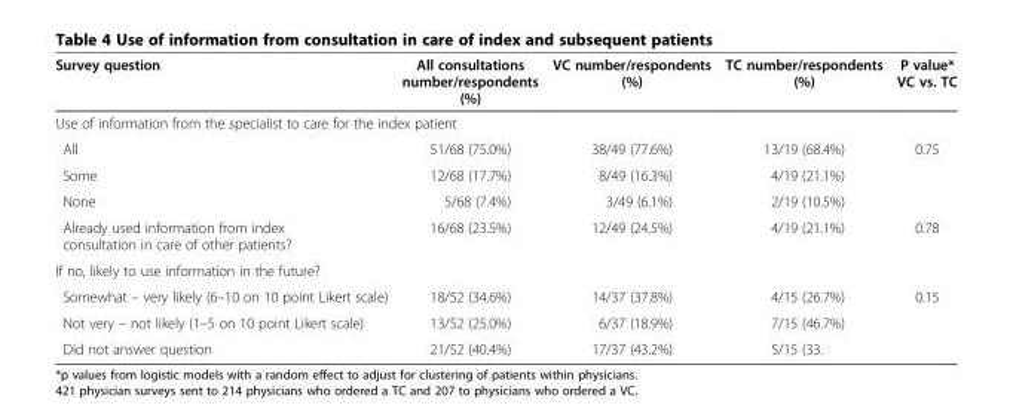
<table><thead><tr><td>Survey question</td><td>All consultations number/respondents (%)</td><td>VC number/respondents (%)</td><td>TC number/respondents (%)</td><td>P value* VC vs. TC</td></tr></thead><tbody><tr><td colspan="5">Use of information from the specialist to care for the index patient</td></tr><tr><td>All</td><td>51/68 (75.0%)</td><td>38/49 (77.6%)</td><td>13/19 (68.4%)</td><td>0.75</td></tr><tr><td>Some</td><td>12/68 (17.7%)</td><td>8/49 (16.3%)</td><td>4/19 (21.1%)</td><td></td></tr><tr><td>None</td><td>5/68 (7.4%)</td><td>3/49 (6.1%)</td><td>2/19 (10.5%)</td><td></td></tr><tr><td>Already used information from index consultation in care of other patients?</td><td>16/68 (23.5%)</td><td>12/49 (24.5%)</td><td>4/19 (21.1%)</td><td>0.78</td></tr><tr><td colspan="5">If no, likely to use information in the future?</td></tr><tr><td>Somewhat – very likely (6–10 on 10 point Likert scale)</td><td>18/52 (34.6%)</td><td>14/37 (37.8%)</td><td>4/15 (26.7%)</td><td>0.15</td></tr><tr><td>Not very – not likely (1–5 on 10 point Likert scale)</td><td>13/52 (25.0%)</td><td>6/37 (18.9%)</td><td>7/15 (46.7%)</td><td></td></tr><tr><td>Did not answer question</td><td>21/52 (40.4%)</td><td>17/37 (43.2%)</td><td>5/15 (33.</td><td></td></tr></tbody></table>